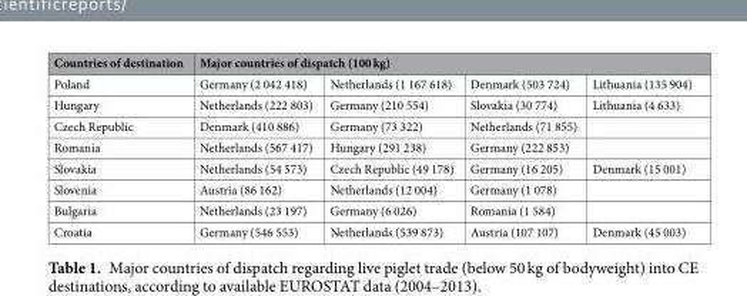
<table><thead><tr><td rowspan="2">Countries of destination Poland</td><td colspan="4">Major countries of dispatch (100 kg)</td></tr><tr><td>Germany (2 042 418)</td><td>Netherlands (1 167 618)</td><td>Denmark (503 724)</td><td>Lithuania (135 904)</td></tr></thead><tbody><tr><td>Hungary</td><td>Netherlands (222 803)</td><td>Germany (210 554)</td><td>Slovakia (30 774)</td><td>Lithuania (4 633)</td></tr><tr><td>Czech Republic</td><td>Denmark (410 886)</td><td>Germany (73 322)</td><td>Netherlands (71 855)</td><td></td></tr><tr><td>Romania</td><td>Netherlands (567 417)</td><td>Hungary (291 238)</td><td>Germany (222 853)</td><td></td></tr><tr><td>Slovakia</td><td>Netherlands (54 573)</td><td>Czech Republic (49 178)</td><td>Germany (16 205)</td><td>Denmark (15 001)</td></tr><tr><td>Slovenia</td><td>Austria (86 162)</td><td>Netherlands (12 004)</td><td>Germany (1 078)</td><td></td></tr><tr><td>Bulgaria</td><td>Netherlands (23 197)</td><td>Germany (6 026)</td><td>Romania (1 584)</td><td></td></tr><tr><td>Croatia</td><td>Germany (546 553)</td><td>Netherlands (539 873)</td><td>Austria (107 107)</td><td>Denmark (45 003)</td></tr></tbody></table>